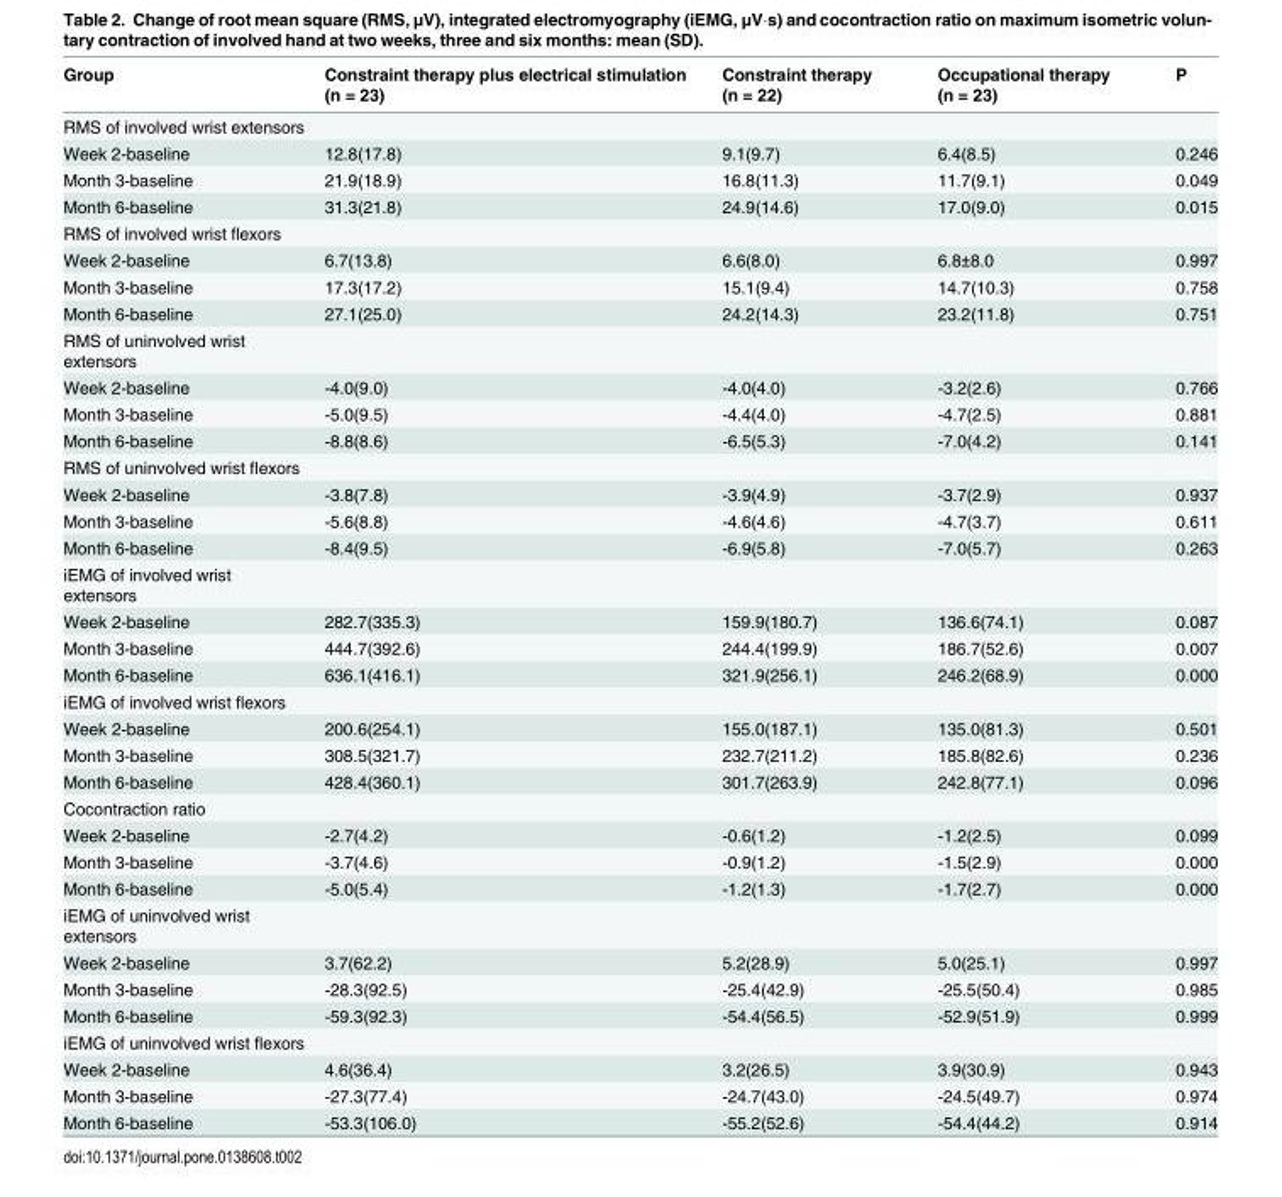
<table><thead><tr><td>Group</td><td>Constraint therapy plus electrical stimulation (n = 23)</td><td>Constraint therapy (n = 22)</td><td>Occupational therapy (n = 23)</td><td>P</td></tr></thead><tbody><tr><td colspan="5">RMS of involved wrist extensors</td></tr><tr><td>Week 2-baseline</td><td>12.8(17.8)</td><td>9.1(9.7)</td><td>6.4(8.5)</td><td>0.246</td></tr><tr><td>Month 3-baseline</td><td>21.9(18.9)</td><td>16.8(11.3)</td><td>11.7(9.1)</td><td>0.049</td></tr><tr><td>Month 6-baseline</td><td>31.3(21.8)</td><td>24.9(14.6)</td><td>17.0(9.0)</td><td>0.015</td></tr><tr><td colspan="5">RMS of involved wrist flexors</td></tr><tr><td>Week 2-baseline</td><td>6.7(13.8)</td><td>6.6(8.0)</td><td>6.8±8.0</td><td>0.997</td></tr><tr><td>Month 3-baseline</td><td>17.3(17.2)</td><td>15.1(9.4)</td><td>14.7(10.3)</td><td>0.758</td></tr><tr><td>Month 6-baseline</td><td>27.1(25.0)</td><td>24.2(14.3)</td><td>23.2(11.8)</td><td>0.751</td></tr><tr><td colspan="5">RMS of uninvolved wrist extensors</td></tr><tr><td>Week 2-baseline</td><td>-4.0(9.0)</td><td>-4.0(4.0)</td><td>-3.2(2.6)</td><td>0.766</td></tr><tr><td>Month 3-baseline</td><td>-5.0(9.5)</td><td>-4.4(4.0)</td><td>-4.7(2.5)</td><td>0.881</td></tr><tr><td>Month 6-baseline</td><td>-8.8(8.6)</td><td>-6.5(5.3)</td><td>-7.0(4.2)</td><td>0.141</td></tr><tr><td colspan="5">RMS of uninvolved wrist flexors</td></tr><tr><td>Week 2-baseline</td><td>-3.8(7.8)</td><td>-3.9(4.9)</td><td>-3.7(2.9)</td><td>0.937</td></tr><tr><td>Month 3-baseline</td><td>-5.6(8.8)</td><td>-4.6(4.6)</td><td>-4.7(3.7)</td><td>0.611</td></tr><tr><td>Month 6-baseline</td><td>-8.4(9.5)</td><td>-6.9(5.8)</td><td>-7.0(5.7)</td><td>0.263</td></tr><tr><td colspan="5">iEMG of involved wrist extensors</td></tr><tr><td>Week 2-baseline</td><td>282.7(335.3)</td><td>159.9(180.7)</td><td>136.6(74.1)</td><td>0.087</td></tr><tr><td>Month 3-baseline</td><td>444.7(392.6)</td><td>244.4(199.9)</td><td>186.7(52.6)</td><td>0.007</td></tr><tr><td>Month 6-baseline</td><td>636.1(416.1)</td><td>321.9(256.1)</td><td>246.2(68.9)</td><td>0.000</td></tr><tr><td colspan="5">iEMG of involved wrist flexors</td></tr><tr><td>Week 2-baseline</td><td>200.6(254.1)</td><td>155.0(187.1)</td><td>135.0(81.3)</td><td>0.501</td></tr><tr><td>Month 3-baseline</td><td>308.5(321.7)</td><td>232.7(211.2)</td><td>185.8(82.6)</td><td>0.236</td></tr><tr><td>Month 6-baseline</td><td>428.4(360.1)</td><td>301.7(263.9)</td><td>242.8(77.1)</td><td>0.096</td></tr><tr><td colspan="5">Cocontraction ratio</td></tr><tr><td>Week 2-baseline</td><td>-2.7(4.2)</td><td>-0.6(1.2)</td><td>-1.2(2.5)</td><td>0.099</td></tr><tr><td>Month 3-baseline</td><td>-3.7(4.6)</td><td>-0.9(1.2)</td><td>-1.5(2.9)</td><td>0.000</td></tr><tr><td>Month 6-baseline</td><td>-5.0(5.4)</td><td>-1.2(1.3)</td><td>-1.7(2.7)</td><td>0.000</td></tr><tr><td colspan="5">iEMG of uninvolved wrist extensors</td></tr><tr><td>Week 2-baseline</td><td>3.7(62.2)</td><td>5.2(28.9)</td><td>5.0(25.1)</td><td>0.997</td></tr><tr><td>Month 3-baseline</td><td>-28.3(92.5)</td><td>-25.4(42.9)</td><td>-25.5(50.4)</td><td>0.985</td></tr><tr><td>Month 6-baseline</td><td>-59.3(92.3)</td><td>-54.4(56.5)</td><td>-52.9(51.9)</td><td>0.999</td></tr><tr><td colspan="5">iEMG of uninvolved wrist flexors</td></tr><tr><td>Week 2-baseline</td><td>4.6(36.4)</td><td>3.2(26.5)</td><td>3.9(30.9)</td><td>0.943</td></tr><tr><td>Month 3-baseline</td><td>-27.3(77.4)</td><td>-24.7(43.0)</td><td>-24.5(49.7)</td><td>0.974</td></tr><tr><td>Month 6-baseline</td><td>-53.3(106.0)</td><td>-55.2(52.6)</td><td>-54.4(44.2)</td><td>0.914</td></tr></tbody></table>